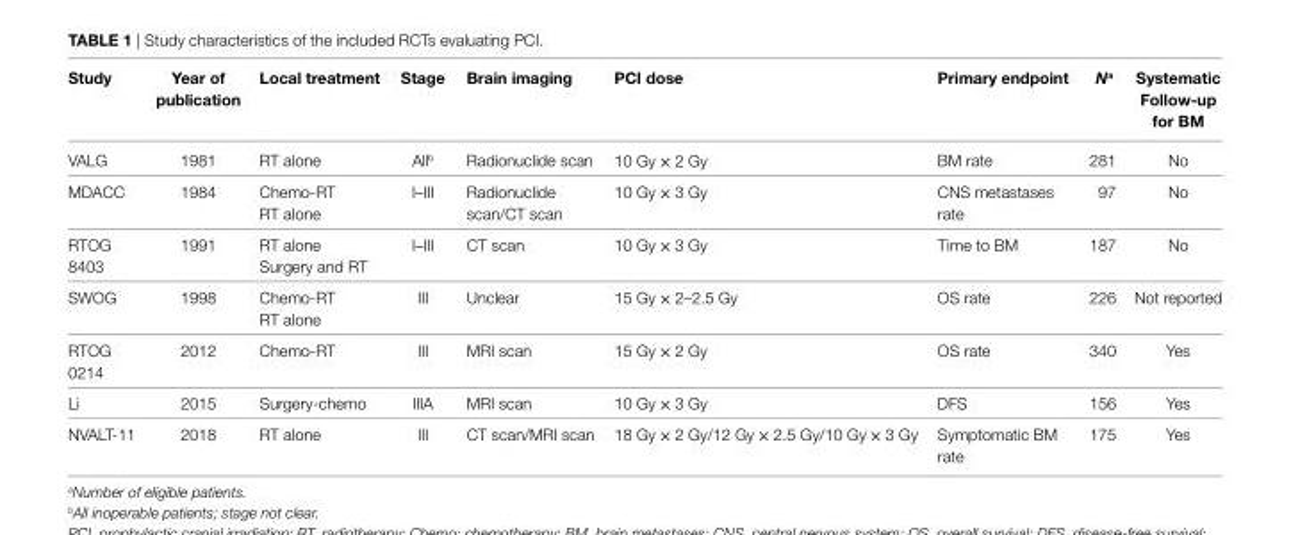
<table><thead><tr><td>Study</td><td>Year of publication</td><td>Local treatment</td><td>Stage</td><td>Brain imaging</td><td>PCi dose</td><td>Primary endpoint</td><td>N<sup>a</sup></td><td>Systematic Follow-up for BM</td></tr></thead><tbody><tr><td>VALG</td><td>1981</td><td>RT alone</td><td>All<sup>b</sup></td><td>Radionuclide scan</td><td>10 Gy × 2 Gy</td><td>BM rate</td><td>281</td><td>No</td></tr><tr><td rowspan="2">MDACC</td><td rowspan="2">1984</td><td>Chemo-RT</td><td rowspan="2">I–III</td><td rowspan="2">Radionuclide scan/CT scan</td><td rowspan="2">10 Gy × 3 Gy</td><td rowspan="2">CNS metastases rate</td><td rowspan="2">97</td><td rowspan="2">No</td></tr><tr><td>RT alone</td></tr><tr><td rowspan="2">RTOG 8403</td><td rowspan="2">1991</td><td>RT alone</td><td rowspan="2">I–III</td><td rowspan="2">CT scan</td><td rowspan="2">10 Gy × 3 Gy</td><td rowspan="2">Time to BM</td><td rowspan="2">187</td><td rowspan="2">No</td></tr><tr><td>Surgery and RT</td></tr><tr><td rowspan="2">SWOG</td><td rowspan="2">1998</td><td>Chemo-RT</td><td rowspan="2">III</td><td rowspan="2">Unclear</td><td rowspan="2">15 Gy × 2–2.5 Gy</td><td rowspan="2">OS rate</td><td rowspan="2">226</td><td rowspan="2">Not reported</td></tr><tr><td>RT alone</td></tr><tr><td>RTOG 0214</td><td>2012</td><td>Chemo-RT</td><td>III</td><td>MRI scan</td><td>15 Gy × 2 Gy</td><td>OS rate</td><td>340</td><td>Yes</td></tr><tr><td>Li</td><td>2015</td><td>Surgery-chemo</td><td>IIIA</td><td>MRI scan</td><td>10 Gy × 3 Gy</td><td>DFS</td><td>156</td><td>Yes</td></tr><tr><td>NVALT-11</td><td>2018</td><td>RT alone</td><td>III</td><td>CT scan/MRI scan</td><td>18 Gy × 2 Gy/12 Gy × 2.5 Gy/10 Gy × 3 Gy</td><td>Symptomatic BM rate</td><td>175</td><td>Yes</td></tr></tbody></table>